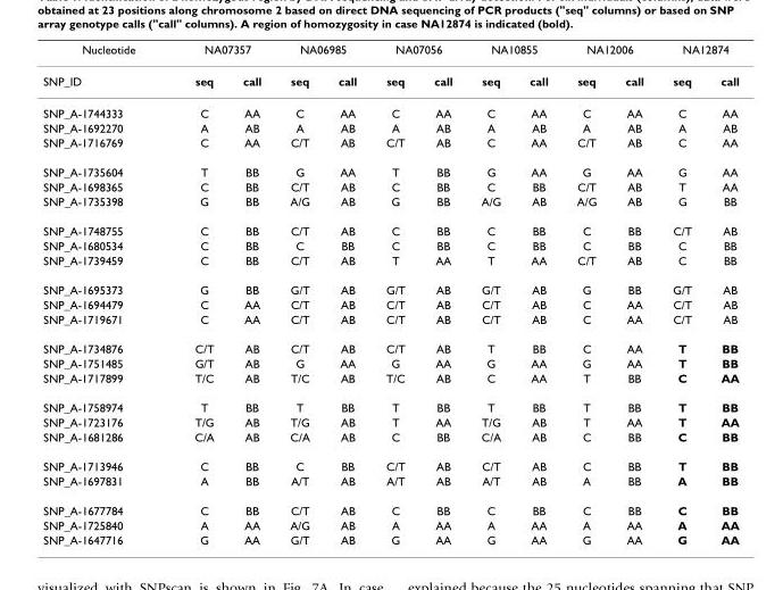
<table><thead><tr><td rowspan="2">Nucleotide SNP_ID</td><td colspan="2">NA07357</td><td colspan="2">NA06985</td><td colspan="2">NA07056</td><td colspan="2">NA10855</td><td colspan="2">NA12006</td><td colspan="2">NA12874</td></tr><tr><td>seq</td><td>call</td><td>seq</td><td>call</td><td>seq</td><td>call</td><td>seq</td><td>call</td><td>seq</td><td>call</td><td>seq</td><td>call</td></tr></thead><tbody><tr><td>SNP_A-1744333</td><td>C</td><td>AA</td><td>C</td><td>AA</td><td>C</td><td>AA</td><td>C</td><td>AA</td><td>C</td><td>AA</td><td>C</td><td>AA</td></tr><tr><td>SNP_A-1692270</td><td>A</td><td>AB</td><td>A</td><td>AB</td><td>A</td><td>AB</td><td>A</td><td>AB</td><td>A</td><td>AB</td><td>A</td><td>AB</td></tr><tr><td>SNP_A-1716769</td><td>C</td><td>AA</td><td>C/T</td><td>AB</td><td>C/T</td><td>AB</td><td>C</td><td>AA</td><td>C/T</td><td>AB</td><td>C</td><td>AA</td></tr><tr><td>SNP_A-1735604</td><td>T</td><td>BB</td><td>G</td><td>AA</td><td>T</td><td>BB</td><td>G</td><td>AA</td><td>G</td><td>AA</td><td>G</td><td>AA</td></tr><tr><td>SNP_A-1698365</td><td>C</td><td>BB</td><td>C/T</td><td>AB</td><td>C</td><td>BB</td><td>C</td><td>BB</td><td>C/T</td><td>AB</td><td>T</td><td>AA</td></tr><tr><td>SNP_A-1735398</td><td>G</td><td>BB</td><td>A/G</td><td>AB</td><td>G</td><td>BB</td><td>A/G</td><td>AB</td><td>A/G</td><td>AB</td><td>G</td><td>BB</td></tr><tr><td>SNP_A-1748755</td><td>C</td><td>BB</td><td>C/T</td><td>AB</td><td>C</td><td>BB</td><td>C</td><td>BB</td><td>C</td><td>BB</td><td>C/T</td><td>AB</td></tr><tr><td>SNP_A-1680534</td><td>C</td><td>BB</td><td>C</td><td>BB</td><td>C</td><td>BB</td><td>C</td><td>BB</td><td>C</td><td>BB</td><td>C</td><td>BB</td></tr><tr><td>SNP_A-1739459</td><td>C</td><td>BB</td><td>C/T</td><td>AB</td><td>T</td><td>AA</td><td>T</td><td>AA</td><td>C/T</td><td>AB</td><td>C</td><td>BB</td></tr><tr><td>SNP_A-1695373</td><td>G</td><td>BB</td><td>G/T</td><td>AB</td><td>G/T</td><td>AB</td><td>G/T</td><td>AB</td><td>G</td><td>BB</td><td>G/T</td><td>AB</td></tr><tr><td>SNP_A-1694479</td><td>C</td><td>AA</td><td>C/T</td><td>AB</td><td>C/T</td><td>AB</td><td>C/T</td><td>AB</td><td>C</td><td>AA</td><td>C/T</td><td>AB</td></tr><tr><td>SNP_A-1719671</td><td>C</td><td>AA</td><td>C/T</td><td>AB</td><td>C/T</td><td>AB</td><td>C/T</td><td>AB</td><td>C</td><td>AA</td><td>C/T</td><td>AB</td></tr><tr><td>SNP_A-1734876</td><td>C/T</td><td>AB</td><td>C/T</td><td>AB</td><td>C/T</td><td>AB</td><td>T</td><td>BB</td><td>C</td><td>AA</td><td>T</td><td>BB</td></tr><tr><td>SNP_A-1751485</td><td>G/T</td><td>AB</td><td>G</td><td>AA</td><td>G</td><td>AA</td><td>G</td><td>AA</td><td>G</td><td>AA</td><td>T</td><td>BB</td></tr><tr><td>SNP_A-1717899</td><td>T/C</td><td>AB</td><td>T/C</td><td>AB</td><td>T/C</td><td>AB</td><td>C</td><td>AA</td><td>T</td><td>BB</td><td>C</td><td>AA</td></tr><tr><td>SNP_A-1758974</td><td>T</td><td>BB</td><td>T</td><td>BB</td><td>T</td><td>BB</td><td>T</td><td>BB</td><td>T</td><td>BB</td><td>T</td><td>BB</td></tr><tr><td>SNP_A-1723176</td><td>T/G</td><td>AB</td><td>T/G</td><td>AB</td><td>T</td><td>AA</td><td>T/G</td><td>AB</td><td>T</td><td>AA</td><td>T</td><td>AA</td></tr><tr><td>SNP_A-1681286</td><td>C/A</td><td>AB</td><td>C/A</td><td>AB</td><td>C</td><td>BB</td><td>C/A</td><td>AB</td><td>C</td><td>BB</td><td>C</td><td>BB</td></tr><tr><td>SNP_A-1713946</td><td>C</td><td>BB</td><td>C</td><td>BB</td><td>C/T</td><td>AB</td><td>C/T</td><td>AB</td><td>C</td><td>BB</td><td>T</td><td>BB</td></tr><tr><td>SNP_A-1697831</td><td>A</td><td>BB</td><td>A/T</td><td>AB</td><td>A/T</td><td>AB</td><td>A/T</td><td>AB</td><td>A</td><td>BB</td><td>A</td><td>BB</td></tr><tr><td>SNP_A-1677784</td><td>C</td><td>BB</td><td>C/T</td><td>AB</td><td>C</td><td>BB</td><td>C</td><td>BB</td><td>C</td><td>BB</td><td>C</td><td>BB</td></tr><tr><td>SNP_A-1725840</td><td>A</td><td>AA</td><td>A/G</td><td>AB</td><td>A</td><td>AA</td><td>A</td><td>AA</td><td>A</td><td>AA</td><td>A</td><td>AA</td></tr><tr><td>SNP_A-1647716</td><td>G</td><td>AA</td><td>G/T</td><td>AB</td><td>G</td><td>AA</td><td>G</td><td>AA</td><td>G</td><td>AA</td><td>G</td><td>AA</td></tr></tbody></table>